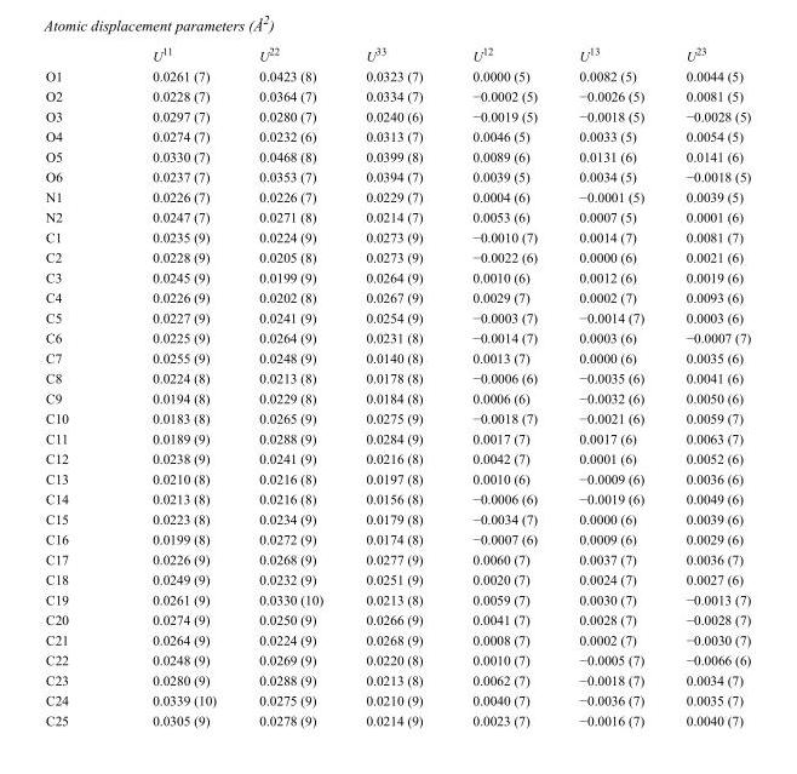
<table><thead><tr><td></td><td>U<sup>11</sup></td><td>U<sup>22</sup></td><td>U<sup>33</sup></td><td>U<sup>12</sup></td><td>U<sup>13</sup></td><td>U<sup>23</sup></td></tr></thead><tbody><tr><td>O1</td><td>0.0261 (7)</td><td>0.0423 (8)</td><td>0.0323 (7)</td><td>0.0000 (5)</td><td>0.0082 (5)</td><td>0.0044 (5)</td></tr><tr><td>O2</td><td>0.0228 (7)</td><td>0.0364 (7)</td><td>0.0334 (7)</td><td>−0.0002 (5)</td><td>−0.0026 (5)</td><td>0.0081 (5)</td></tr><tr><td>O3</td><td>0.0297 (7)</td><td>0.0280 (7)</td><td>0.0240 (6)</td><td>−0.0019 (5)</td><td>−0.0018 (5)</td><td>−0.0028 (5)</td></tr><tr><td>O4</td><td>0.0274 (7)</td><td>0.0232 (6)</td><td>0.0313 (7)</td><td>0.0046 (5)</td><td>0.0033 (5)</td><td>0.0054 (5)</td></tr><tr><td>O5</td><td>0.0330 (7)</td><td>0.0468 (8)</td><td>0.0399 (8)</td><td>0.0089 (6)</td><td>0.0131 (6)</td><td>0.0141 (6)</td></tr><tr><td>O6</td><td>0.0237 (7)</td><td>0.0353 (7)</td><td>0.0394 (7)</td><td>0.0039 (5)</td><td>0.0034 (5)</td><td>−0.0018 (5)</td></tr><tr><td>N1</td><td>0.0226 (7)</td><td>0.0226 (7)</td><td>0.0229 (7)</td><td>0.0004 (6)</td><td>−0.0001 (5)</td><td>0.0039 (5)</td></tr><tr><td>N2</td><td>0.0247 (7)</td><td>0.0271 (8)</td><td>0.0214 (7)</td><td>0.0053 (6)</td><td>0.0007 (5)</td><td>0.0001 (6)</td></tr><tr><td>C1</td><td>0.0235 (9)</td><td>0.0224 (9)</td><td>0.0273 (9)</td><td>−0.0010 (7)</td><td>0.0014 (7)</td><td>0.0081 (7)</td></tr><tr><td>C2</td><td>0.0228 (9)</td><td>0.0205 (8)</td><td>0.0273 (9)</td><td>−0.0022 (6)</td><td>0.0000 (6)</td><td>0.0021 (6)</td></tr><tr><td>C3</td><td>0.0245 (9)</td><td>0.0199 (9)</td><td>0.0264 (9)</td><td>0.0010 (6)</td><td>0.0012 (6)</td><td>0.0019 (6)</td></tr><tr><td>C4</td><td>0.0226 (9)</td><td>0.0202 (8)</td><td>0.0267 (9)</td><td>0.0029 (7)</td><td>0.0002 (7)</td><td>0.0093 (6)</td></tr><tr><td>C5</td><td>0.0227 (9)</td><td>0.0241 (9)</td><td>0.0254 (9)</td><td>−0.0003 (7)</td><td>−0.0014 (7)</td><td>0.0003 (6)</td></tr><tr><td>C6</td><td>0.0225 (9)</td><td>0.0264 (9)</td><td>0.0231 (8)</td><td>−0.0014 (7)</td><td>0.0003 (6)</td><td>−0.0007 (7)</td></tr><tr><td>C7</td><td>0.0255 (9)</td><td>0.0248 (9)</td><td>0.0140 (8)</td><td>0.0013 (7)</td><td>0.0000 (6)</td><td>0.0035 (6)</td></tr><tr><td>C8</td><td>0.0224 (8)</td><td>0.0213 (8)</td><td>0.0178 (8)</td><td>−0.0006 (6)</td><td>−0.0035 (6)</td><td>0.0041 (6)</td></tr><tr><td>C9</td><td>0.0194 (8)</td><td>0.0229 (8)</td><td>0.0184 (8)</td><td>0.0006 (6)</td><td>−0.0032 (6)</td><td>0.0050 (6)</td></tr><tr><td>C10</td><td>0.0183 (8)</td><td>0.0265 (9)</td><td>0.0275 (9)</td><td>−0.0018 (7)</td><td>−0.0021 (6)</td><td>0.0059 (7)</td></tr><tr><td>C11</td><td>0.0189 (9)</td><td>0.0288 (9)</td><td>0.0284 (9)</td><td>0.0017 (7)</td><td>0.0017 (6)</td><td>0.0063 (7)</td></tr><tr><td>C12</td><td>0.0238 (9)</td><td>0.0241 (9)</td><td>0.0216 (8)</td><td>0.0042 (7)</td><td>0.0001 (6)</td><td>0.0052 (6)</td></tr><tr><td>C13</td><td>0.0210 (8)</td><td>0.0216 (8)</td><td>0.0197 (8)</td><td>0.0010 (6)</td><td>−0.0009 (6)</td><td>0.0036 (6)</td></tr><tr><td>C14</td><td>0.0213 (8)</td><td>0.0216 (8)</td><td>0.0156 (8)</td><td>−0.0006 (6)</td><td>−0.0019 (6)</td><td>0.0049 (6)</td></tr><tr><td>C15</td><td>0.0223 (8)</td><td>0.0234 (9)</td><td>0.0179 (8)</td><td>−0.0034 (7)</td><td>0.0000 (6)</td><td>0.0039 (6)</td></tr><tr><td>C16</td><td>0.0199 (8)</td><td>0.0272 (9)</td><td>0.0174 (8)</td><td>−0.0007 (6)</td><td>0.0009 (6)</td><td>0.0029 (6)</td></tr><tr><td>C17</td><td>0.0226 (9)</td><td>0.0268 (9)</td><td>0.0277 (9)</td><td>0.0060 (7)</td><td>0.0037 (7)</td><td>0.0036 (7)</td></tr><tr><td>C18</td><td>0.0249 (9)</td><td>0.0232 (9)</td><td>0.0251 (9)</td><td>0.0020 (7)</td><td>0.0024 (7)</td><td>0.0027 (6)</td></tr><tr><td>C19</td><td>0.0261 (9)</td><td>0.0330 (10)</td><td>0.0213 (8)</td><td>0.0059 (7)</td><td>0.0030 (7)</td><td>−0.0013 (7)</td></tr><tr><td>C20</td><td>0.0274 (9)</td><td>0.0250 (9)</td><td>0.0266 (9)</td><td>0.0041 (7)</td><td>0.0028 (7)</td><td>−0.0028 (7)</td></tr><tr><td>C21</td><td>0.0264 (9)</td><td>0.0224 (9)</td><td>0.0268 (9)</td><td>0.0008 (7)</td><td>0.0002 (7)</td><td>−0.0030 (7)</td></tr><tr><td>C22</td><td>0.0248 (9)</td><td>0.0269 (9)</td><td>0.0220 (8)</td><td>0.0010 (7)</td><td>−0.0005 (7)</td><td>−0.0066 (6)</td></tr><tr><td>C23</td><td>0.0280 (9)</td><td>0.0288 (9)</td><td>0.0213 (8)</td><td>0.0062 (7)</td><td>−0.0018 (7)</td><td>0.0034 (7)</td></tr><tr><td>C24</td><td>0.0339 (10)</td><td>0.0275 (9)</td><td>0.0210 (9)</td><td>0.0040 (7)</td><td>−0.0036 (7)</td><td>0.0035 (7)</td></tr><tr><td>C25</td><td>0.0305 (9)</td><td>0.0278 (9)</td><td>0.0214 (9)</td><td>0.0023 (7)</td><td>−0.0016 (7)</td><td>0.0040 (7)</td></tr></tbody></table>